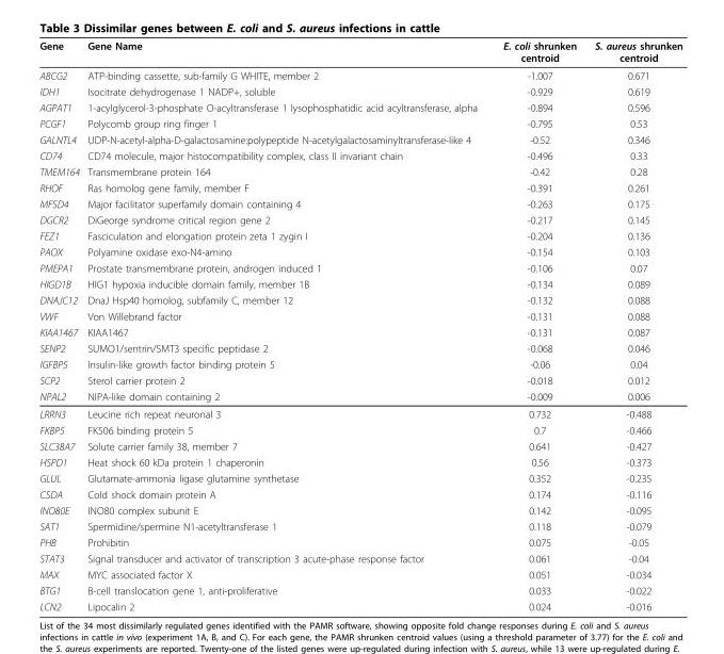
<table><thead><tr><td>Gene</td><td>Gene Name</td><td>E. coli shrunken centroid</td><td>S. aureus shrunken centroid</td></tr></thead><tbody><tr><td>ABCG2</td><td>ATP-binding cassette, sub-family G WHITE, member 2</td><td>-1.007</td><td>0.671</td></tr><tr><td>IDH1</td><td>Isocitrate dehydrogenase 1 NADP+, soluble</td><td>-0.929</td><td>0.619</td></tr><tr><td>AGPAT1</td><td>1-acylglycerol-3-phosphate O-acyltransferase 1 lysophosphatidic acid acyltransferase, alpha</td><td>-0.894</td><td>0.596</td></tr><tr><td>PCGF1</td><td>Polycomb group ring finger 1</td><td>-0.795</td><td>0.53</td></tr><tr><td>GALNTL4</td><td>UDP-N-acetyl-alpha-D-galactosamine:polypeptide N-acetylgalactosaminyltransferase-like 4</td><td>-0.52</td><td>0.346</td></tr><tr><td>CD74</td><td>CD74 molecule, major histocompatibility complex, class II invariant chain</td><td>-0.496</td><td>0.33</td></tr><tr><td>TMEM164</td><td>Transmembrane protein 164</td><td>-0.42</td><td>0.28</td></tr><tr><td>RHOF</td><td>Ras homolog gene family, member F</td><td>-0.391</td><td>0.261</td></tr><tr><td>MFSD4</td><td>Major facilitator superfamily domain containing 4</td><td>-0.263</td><td>0.175</td></tr><tr><td>DGCR2</td><td>DiGeorge syndrome critical region gene 2</td><td>-0.217</td><td>0.145</td></tr><tr><td>FEZ1</td><td>Fasciculation and elongation protein zeta 1 zygin I</td><td>-0.204</td><td>0.136</td></tr><tr><td>PAOX</td><td>Polyamine oxidase exo-N4-amino</td><td>-0.154</td><td>0.103</td></tr><tr><td>PMEPA1</td><td>Prostate transmembrane protein, androgen induced 1</td><td>-0.106</td><td>0.07</td></tr><tr><td>HIGD1B</td><td>HIG1 hypoxia inducible domain family, member 1B</td><td>-0.134</td><td>0.089</td></tr><tr><td>DNAJC12</td><td>DnaJ Hsp40 homolog, subfamily C, member 12</td><td>-0.132</td><td>0.088</td></tr><tr><td>VWF</td><td>Von Willebrand factor</td><td>-0.131</td><td>0.088</td></tr><tr><td>KIAA1467</td><td>KIAA1467</td><td>-0.131</td><td>0.087</td></tr><tr><td>SENP2</td><td>SUMO1/sentrin/SMT3 specific peptidase 2</td><td>-0.068</td><td>0.046</td></tr><tr><td>IGFBP5</td><td>Insulin-like growth factor binding protein 5</td><td>-0.06</td><td>0.04</td></tr><tr><td>SCP2</td><td>Sterol carrier protein 2</td><td>-0.018</td><td>0.012</td></tr><tr><td>NPAL2</td><td>NIPA-like domain containing 2</td><td>-0.009</td><td>0.006</td></tr><tr><td>LRRN3</td><td>Leucine rich repeat neuronal 3</td><td>0.732</td><td>-0.488</td></tr><tr><td>FKBP5</td><td>FK506 binding protein 5</td><td>0.7</td><td>-0.466</td></tr><tr><td>SLC38A7</td><td>Solute carrier family 38, member 7</td><td>0.641</td><td>-0.427</td></tr><tr><td>HSPD1</td><td>Heat shock 60 kDa protein 1 chaperonin</td><td>0.56</td><td>-0.373</td></tr><tr><td>GLUL</td><td>Glutamate-ammonia ligase glutamine synthetase</td><td>0.352</td><td>-0.235</td></tr><tr><td>CSDA</td><td>Cold shock domain protein A</td><td>0.174</td><td>-0.116</td></tr><tr><td>INO80E</td><td>INO80 complex subunit E</td><td>0.142</td><td>-0.095</td></tr><tr><td>SAT1</td><td>Spermidine/spermine N1-acetyltransferase 1</td><td>0.118</td><td>-0.079</td></tr><tr><td>PHB</td><td>Prohibitin</td><td>0.075</td><td>-0.05</td></tr><tr><td>STAT3</td><td>Signal transducer and activator of transcription 3 acute-phase response factor</td><td>0.061</td><td>-0.04</td></tr><tr><td>MAX</td><td>MYC associated factor X</td><td>0.051</td><td>-0.034</td></tr><tr><td>BTG1</td><td>B-cell translocation gene 1, anti-proliferative</td><td>0.033</td><td>-0.022</td></tr><tr><td>LCN2</td><td>Lipocalin 2</td><td>0.024</td><td>-0.016</td></tr></tbody></table>